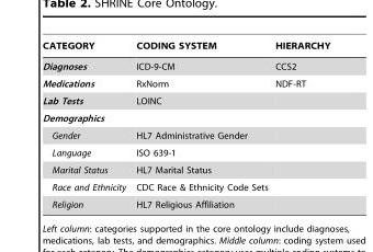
<table><thead><tr><td>CATEGORY</td><td>CODING SYSTEM</td><td>HIERARCHY</td></tr></thead><tbody><tr><td>Diagnoses</td><td>ICD-9-CM</td><td>CCS2</td></tr><tr><td>Medications</td><td>RxNorm</td><td>NDF-RT</td></tr><tr><td>Lab Tests</td><td>LOINC</td><td></td></tr><tr><td colspan="3">Demographics</td></tr><tr><td>Gender</td><td>HL7 Administrative Gender</td><td></td></tr><tr><td>Language</td><td>ISO 639-1</td><td></td></tr><tr><td>Marital Status</td><td>HL7 Marital Status</td><td></td></tr><tr><td>Race and Ethnicity</td><td>CDC Race &amp; Ethnicity Code Sets</td><td></td></tr><tr><td>Religion</td><td>HL7 Religious Affiliation</td><td></td></tr></tbody></table>